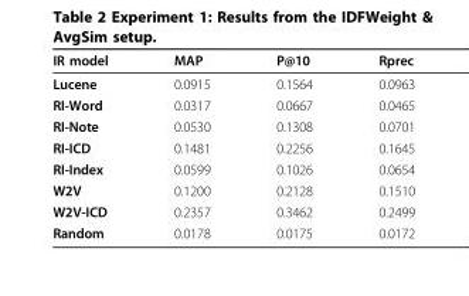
<table><thead><tr><td>IR model</td><td>MAP</td><td>P@10</td><td>Rprec</td></tr></thead><tbody><tr><td>Lucene</td><td>0.0915</td><td>0.1564</td><td>0.0963</td></tr><tr><td>RI-Word</td><td>0.0317</td><td>0.0667</td><td>0.0465</td></tr><tr><td>RI-Note</td><td>0.0530</td><td>0.1308</td><td>0.0701</td></tr><tr><td>RI-ICD</td><td>0.1481</td><td>0.2256</td><td>0.1645</td></tr><tr><td>RI-Index</td><td>0.0599</td><td>0.1026</td><td>0.0654</td></tr><tr><td>W2V</td><td>0.1200</td><td>0.2128</td><td>0.1510</td></tr><tr><td>W2V-ICD</td><td>0.2357</td><td>0.3462</td><td>0.2499</td></tr><tr><td>Random</td><td>0.0178</td><td>0.0175</td><td>0.0172</td></tr></tbody></table>